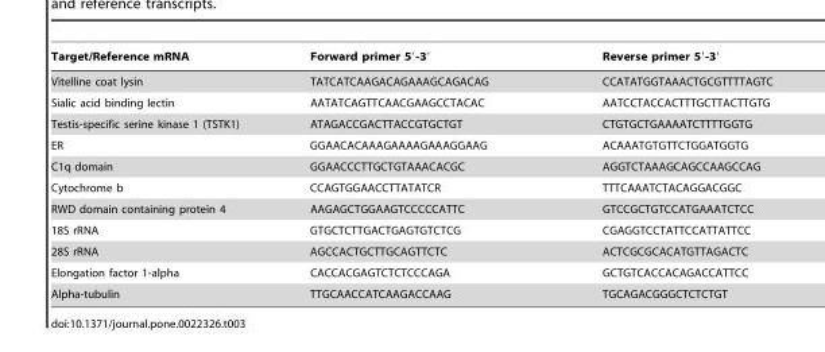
<table><thead><tr><td>Target/Reference mRNA</td><td>Forward primer 5′-3′</td><td>Reverse primer 5′-3′</td></tr></thead><tbody><tr><td>Vitelline coat lysin</td><td>TATCATCAAGACAGAAAGCAGACAG</td><td>CCATATGGTAAACTGCGTTTTAGTC</td></tr><tr><td>Sialic acid binding lectin</td><td>AATATCAGTTCAACGAAGCCTACAC</td><td>AATCCTACCACTTTGCTTACTTGTG</td></tr><tr><td>Testis-specific serine kinase 1 (TSTK1)</td><td>ATAGACCGACTTACCGTGCTGT</td><td>CTGTGCTGAAAATCTTTTGGTG</td></tr><tr><td>ER</td><td>GGAACACAAAGAAAAGAAAGGAAG</td><td>ACAAATGTGTTCTGGATGGTG</td></tr><tr><td>C1q domain</td><td>GGAACCCTTGCTGTAAACACGC</td><td>AGGTCTAAAGCAGCCAAGCCAG</td></tr><tr><td>Cytochrome b</td><td>CCAGTGGAACCTTATATCR</td><td>TTTCAAATCTACAGGACGGC</td></tr><tr><td>RWD domain containing protein 4</td><td>AAGAGCTGGAAGTCCCCCATTC</td><td>GTCCGCTGTCCATGAAATCTCC</td></tr><tr><td>18S rRNA</td><td>GTGCTCTTGACTGAGTGTCTCG</td><td>CGAGGTCCTATTCCATTATTCC</td></tr><tr><td>28S rRNA</td><td>AGCCACTGCTTGCAGTTCTC</td><td>ACTCGCGCACATGTTAGACTC</td></tr><tr><td>Elongation factor 1-alpha</td><td>CACCACGAGTCTCTCCCAGA</td><td>GCTGTCACCACAGACCATTCC</td></tr><tr><td>Alpha-tubulin</td><td>TTGCAACCATCAAGACCAAG</td><td>TGCAGACGGGCTCTCTGT</td></tr></tbody></table>